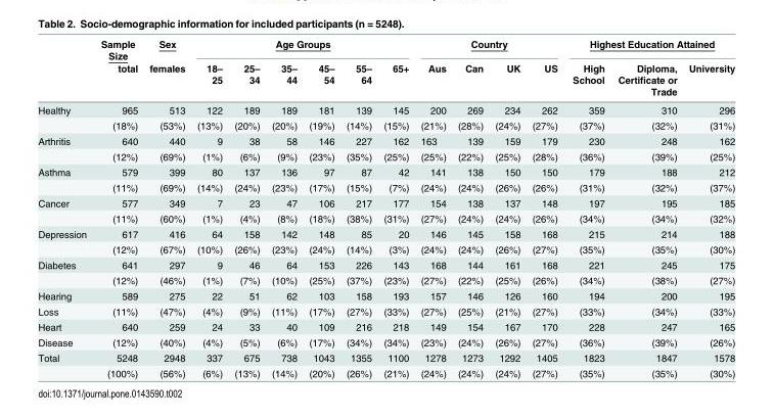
<table><thead><tr><td rowspan="2"></td><td rowspan="2">Sample Size total</td><td rowspan="2">Sex females</td><td colspan="6">Age Groups</td><td colspan="4">Country</td><td colspan="3">Highest Education Attained</td></tr><tr><td>18– 25</td><td>25– 34</td><td>35– 44</td><td>45– 54</td><td>55– 64</td><td>65+</td><td>Aus</td><td>Can</td><td>UK</td><td>US</td><td>High School</td><td>Diploma, Certificate or Trade</td><td>University</td></tr></thead><tbody><tr><td rowspan="2">Healthy</td><td>965</td><td>513</td><td>122</td><td>189</td><td>189</td><td>181</td><td>139</td><td>145</td><td>200</td><td>269</td><td>234</td><td>262</td><td>359</td><td>310</td><td>296</td></tr><tr><td>(18%)</td><td>(53%)</td><td>(13%)</td><td>(20%)</td><td>(20%)</td><td>(19%)</td><td>(14%)</td><td>(15%)</td><td>(21%)</td><td>(28%)</td><td>(24%)</td><td>(27%)</td><td>(37%)</td><td>(32%)</td><td>(31%)</td></tr><tr><td rowspan="2">Arthritis</td><td>640</td><td>440</td><td>9</td><td>38</td><td>58</td><td>146</td><td>227</td><td>162</td><td>163</td><td>139</td><td>159</td><td>179</td><td>230</td><td>248</td><td>162</td></tr><tr><td>(12%)</td><td>(69%)</td><td>(1%)</td><td>(6%)</td><td>(9%)</td><td>(23%)</td><td>(35%)</td><td>(25%)</td><td>(25%)</td><td>(22%)</td><td>(25%)</td><td>(28%)</td><td>(36%)</td><td>(39%)</td><td>(25%)</td></tr><tr><td rowspan="2">Asthma</td><td>579</td><td>399</td><td>80</td><td>137</td><td>136</td><td>97</td><td>87</td><td>42</td><td>141</td><td>138</td><td>150</td><td>150</td><td>179</td><td>188</td><td>212</td></tr><tr><td>(11%)</td><td>(69%)</td><td>(14%)</td><td>(24%)</td><td>(23%)</td><td>(17%)</td><td>(15%)</td><td>(7%)</td><td>(24%)</td><td>(24%)</td><td>(26%)</td><td>(26%)</td><td>(31%)</td><td>(32%)</td><td>(37%)</td></tr><tr><td rowspan="2">Cancer</td><td>577</td><td>349</td><td>7</td><td>23</td><td>47</td><td>106</td><td>217</td><td>177</td><td>154</td><td>138</td><td>137</td><td>148</td><td>197</td><td>195</td><td>185</td></tr><tr><td>(11%)</td><td>(60%)</td><td>(1%)</td><td>(4%)</td><td>(8%)</td><td>(18%)</td><td>(38%)</td><td>(31%)</td><td>(27%)</td><td>(24%)</td><td>(24%)</td><td>(26%)</td><td>(34%)</td><td>(34%)</td><td>(32%)</td></tr><tr><td rowspan="2">Depression</td><td>617</td><td>416</td><td>64</td><td>158</td><td>142</td><td>148</td><td>85</td><td>20</td><td>146</td><td>145</td><td>158</td><td>168</td><td>215</td><td>214</td><td>188</td></tr><tr><td>(12%)</td><td>(67%)</td><td>(10%)</td><td>(26%)</td><td>(23%)</td><td>(24%)</td><td>(14%)</td><td>(3%)</td><td>(24%)</td><td>(24%)</td><td>(26%)</td><td>(27%)</td><td>(35%)</td><td>(35%)</td><td>(30%)</td></tr><tr><td rowspan="2">Diabetes</td><td>641</td><td>297</td><td>9</td><td>46</td><td>64</td><td>153</td><td>226</td><td>143</td><td>168</td><td>144</td><td>161</td><td>168</td><td>221</td><td>245</td><td>175</td></tr><tr><td>(12%)</td><td>(46%)</td><td>(1%)</td><td>(7%)</td><td>(10%)</td><td>(25%)</td><td>(37%)</td><td>(23%)</td><td>(27%)</td><td>(22%)</td><td>(25%)</td><td>(26%)</td><td>(34%)</td><td>(38%)</td><td>(27%)</td></tr><tr><td>Hearing</td><td>589</td><td>275</td><td>22</td><td>51</td><td>62</td><td>103</td><td>158</td><td>193</td><td>157</td><td>146</td><td>126</td><td>160</td><td>194</td><td>200</td><td>195</td></tr><tr><td>Loss</td><td>(11%)</td><td>(47%)</td><td>(4%)</td><td>(9%)</td><td>(11%)</td><td>(17%)</td><td>(27%)</td><td>(33%)</td><td>(27%)</td><td>(25%)</td><td>(21%)</td><td>(27%)</td><td>(33%)</td><td>(34%)</td><td>(33%)</td></tr><tr><td>Heart</td><td>640</td><td>259</td><td>24</td><td>33</td><td>40</td><td>109</td><td>216</td><td>218</td><td>149</td><td>154</td><td>167</td><td>170</td><td>228</td><td>247</td><td>165</td></tr><tr><td>Disease</td><td>(12%)</td><td>(40%)</td><td>(4%)</td><td>(5%)</td><td>(6%)</td><td>(17%)</td><td>(34%)</td><td>(34%)</td><td>(23%)</td><td>(24%)</td><td>(26%)</td><td>(27%)</td><td>(36%)</td><td>(39%)</td><td>(26%)</td></tr><tr><td rowspan="2">Total</td><td>5248</td><td>2948</td><td>337</td><td>675</td><td>738</td><td>1043</td><td>1355</td><td>1100</td><td>1278</td><td>1273</td><td>1292</td><td>1405</td><td>1823</td><td>1847</td><td>1578</td></tr><tr><td>(100%)</td><td>(56%)</td><td>(6%)</td><td>(13%)</td><td>(14%)</td><td>(20%)</td><td>(26%)</td><td>(21%)</td><td>(24%)</td><td>(24%)</td><td>(24%)</td><td>(27%)</td><td>(35%)</td><td>(35%)</td><td>(30%)</td></tr></tbody></table>